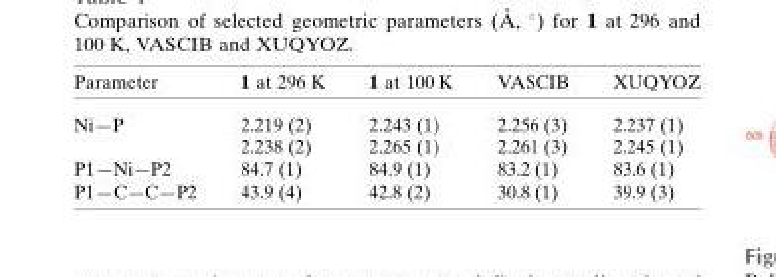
<table><thead><tr><td>Parameter</td><td>1 at 296 K</td><td>1 at 100 K</td><td>VASCIB</td><td>XUQYOZ</td></tr></thead><tbody><tr><td rowspan="2">Ni—P</td><td>2.219 (2)</td><td>2.243 (1)</td><td>2.256 (3)</td><td>2.237 (1)</td></tr><tr><td>2.238 (2)</td><td>2.265 (1)</td><td>2.261 (3)</td><td>2.245 (1)</td></tr><tr><td>P1—Ni—P2</td><td>84.7 (1)</td><td>84.9 (1)</td><td>83.2 (1)</td><td>83.6 (1)</td></tr><tr><td>P1—C—C—P2</td><td>43.9 (4)</td><td>42.8 (2)</td><td>30.8 (1)</td><td>39.9 (3)</td></tr></tbody></table>